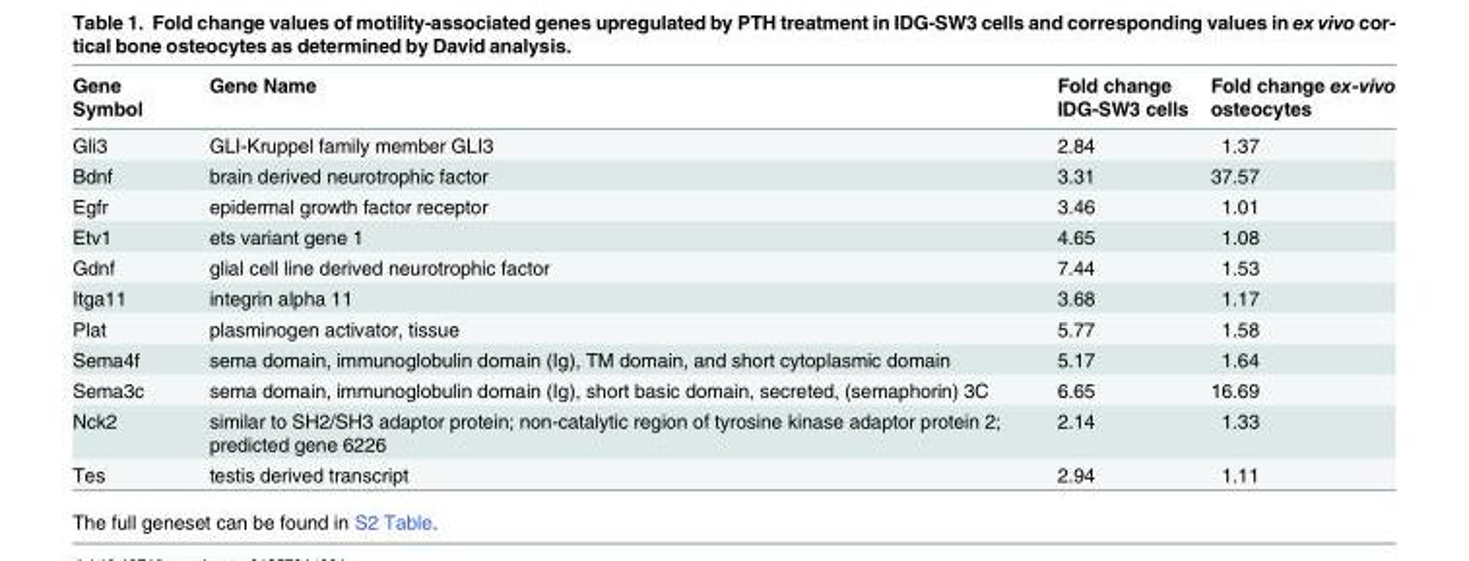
<table><thead><tr><td>Gene Symbol</td><td>Gene Name</td><td>Fold change IDG-SW3 cells</td><td>Fold change ex-vivo osteocytes</td></tr></thead><tbody><tr><td>Gli3</td><td>GLI-Kruppel family member GLI3</td><td>2.84</td><td>1.37</td></tr><tr><td>Bdnf</td><td>brain derived neurotrophic factor</td><td>3.31</td><td>37.57</td></tr><tr><td>Egfr</td><td>epidermal growth factor receptor</td><td>3.46</td><td>1.01</td></tr><tr><td>Etv1</td><td>ets variant gene 1</td><td>4.65</td><td>1.08</td></tr><tr><td>Gdnf</td><td>glial cell line derived neurotrophic factor</td><td>7.44</td><td>1.53</td></tr><tr><td>Itga11</td><td>integrin alpha 11</td><td>3.68</td><td>1.17</td></tr><tr><td>Plat</td><td>plasminogen activator, tissue</td><td>5.77</td><td>1.58</td></tr><tr><td>Sema4f</td><td>sema domain, immunoglobulin domain (Ig), TM domain, and short cytoplasmic domain</td><td>5.17</td><td>1.64</td></tr><tr><td>Sema3c</td><td>sema domain, immunoglobulin domain (Ig), short basic domain, secreted, (semaphorin) 3C</td><td>6.65</td><td>16.69</td></tr><tr><td>Nck2</td><td>similar to SH2/SH3 adaptor protein; non-catalytic region of tyrosine kinase adaptor protein 2; predicted gene 6226</td><td>2.14</td><td>1.33</td></tr><tr><td>Tes</td><td>testis derived transcript</td><td>2.94</td><td>1.11</td></tr></tbody></table>